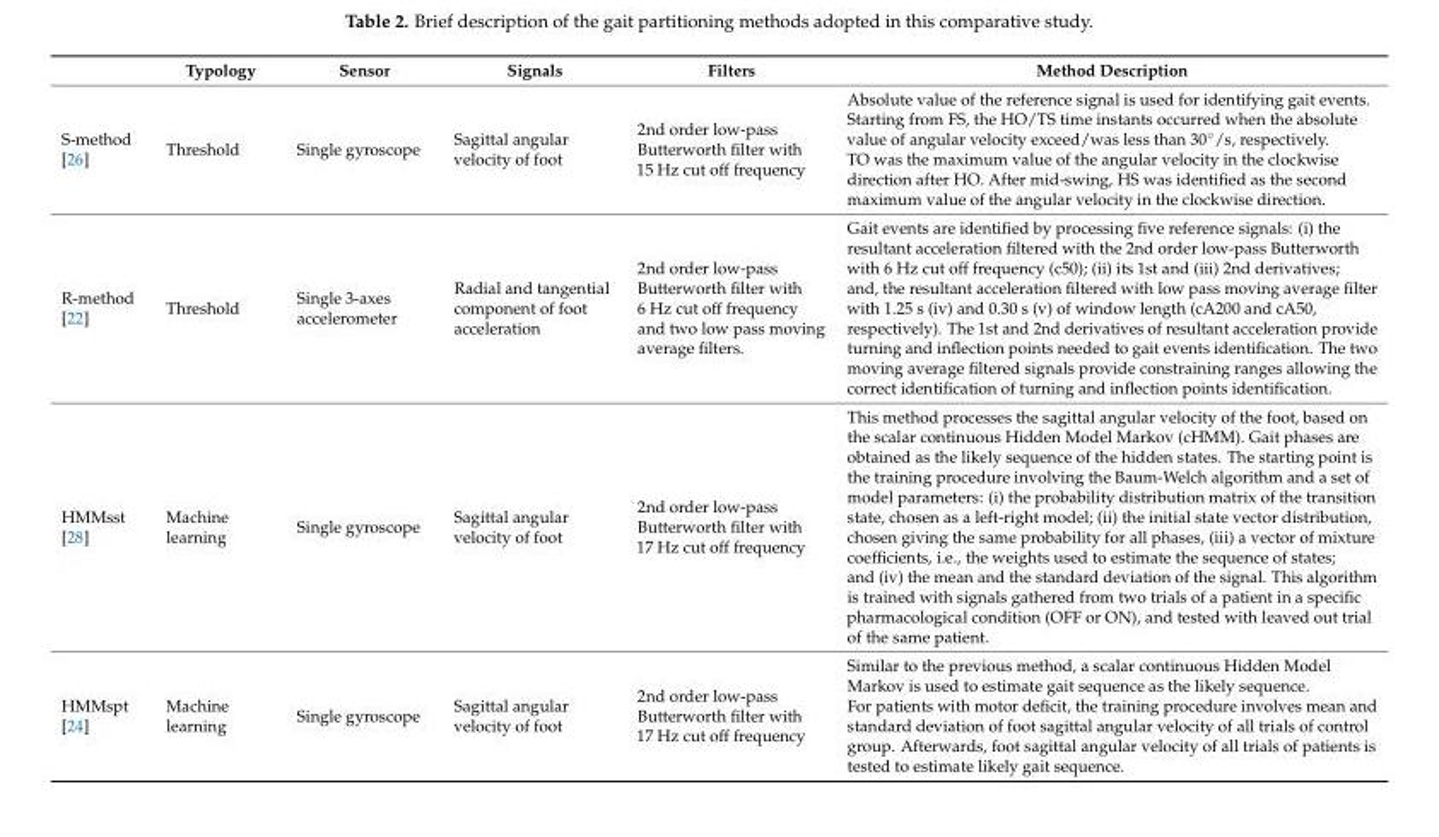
<table><thead><tr><td></td><td>Typology</td><td>Sensor</td><td>Signals</td><td>Filters</td><td>Method Description</td></tr></thead><tbody><tr><td>S-method [26]</td><td>Threshold</td><td>Single gyroscope</td><td>Sagittal angular velocity of foot</td><td>2nd order low-pass Butterworth filter with 15 Hz cut off frequency</td><td>Absolute value of the reference signal is used for identifying gait events. Starting from FS, the HO/TS time instants occurred when the absolute value of angular velocity exceed/was less than 30◦/s, respectively. TO was the maximum value of the angular velocity in the clockwise direction after HO. After mid-swing, HS was identified as the second maximum value of the angular velocity in the clockwise direction.</td></tr><tr><td>R-method [22]</td><td>Threshold</td><td>Single 3-axes accelerometer</td><td>Radial and tangential component of foot acceleration</td><td>2nd order low-pass Butterworth filter with 6 Hz cut off frequency and two low pass moving average filters.</td><td>Gait events are identified by processing five reference signals: (i) the resultant acceleration filtered with the 2nd order low-pass Butterworth with 6 Hz cut off frequency (c50); (ii) its 1st and (iii) 2nd derivatives; and, the resultant acceleration filtered with low pass moving average filter with 1.25 s (iv) and 0.30 s (v) of window length (cA200 and cA50, respectively). The 1st and 2nd derivatives of resultant acceleration provide turning and inflection points needed to gait events identification. The two moving average filtered signals provide constraining ranges allowing the correct identification of turning and inflection points identification.</td></tr><tr><td>HMMsst [28]</td><td>Machine learning</td><td>Single gyroscope</td><td>Sagittal angular velocity of foot</td><td>2nd order low-pass Butterworth filter with 17 Hz cut off frequency</td><td>This method processes the sagittal angular velocity of the foot, based on the scalar continuous Hidden Model Markov (cHMM). Gait phases are obtained as the likely sequence of the hidden states. The starting point is the training procedure involving the Baum-Welch algorithm and a set of model parameters: (i) the probability distribution matrix of the transition state, chosen as a left-right model; (ii) the initial state vector distribution, chosen giving the same probability for all phases, (iii) a vector of mixture coefficients, i.e., the weights used to estimate the sequence of states; and (iv) the mean and the standard deviation of the signal. This algorithm is trained with signals gathered from two trials of a patient in a specific pharmacological condition (OFF or ON), and tested with leaved out trial of the same patient.</td></tr><tr><td>HMMspt [24]</td><td>Machine learning</td><td>Single gyroscope</td><td>Sagittal angular velocity of foot</td><td>2nd order low-pass Butterworth filter with 17 Hz cut off frequency</td><td>Similar to the previous method, a scalar continuous Hidden Model Markov is used to estimate gait sequence as the likely sequence. For patients with motor deficit, the training procedure involves mean and standard deviation of foot sagittal angular velocity of all trials of control group. Afterwards, foot sagittal angular velocity of all trials of patients is tested to estimate likely gait sequence.</td></tr></tbody></table>